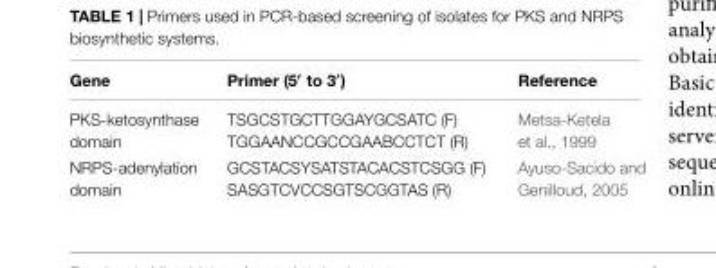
<table><thead><tr><td>Gene</td><td>Primer (5′ to 3′)</td><td>Reference</td></tr></thead><tbody><tr><td>PKS-ketosynthase domain</td><td>TSGCSTGCTTGGAYGCSATC (F) TGGAANCCGCCGAABCCTCT (R)</td><td>Metsa-Ketela et al., 1999</td></tr><tr><td>NRPS-adenylation domain</td><td>GCSTACSYSATSTACACSTCSGG (F) SASGTCVCCSGTSCGGTAS (R)</td><td>Ayuso-Sacido and Genilloud, 2005</td></tr></tbody></table>